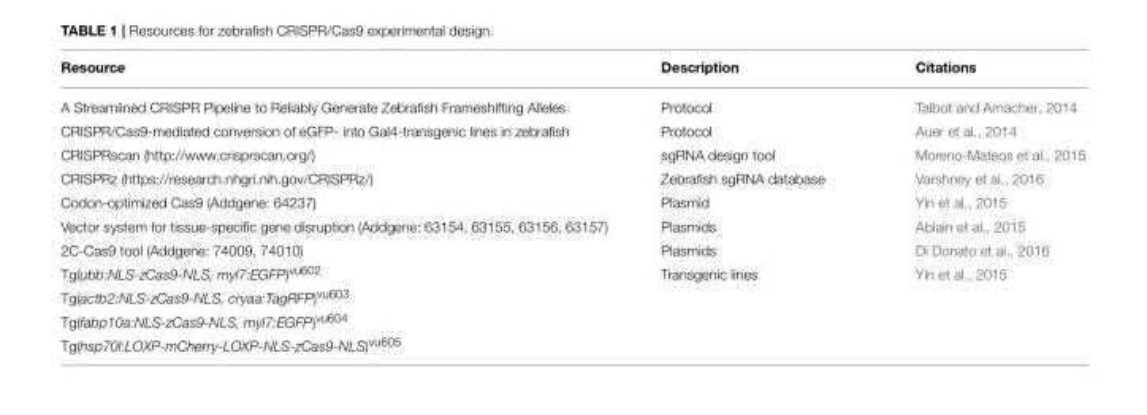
<table><thead><tr><td>Resource</td><td>Description</td><td>Citations</td></tr></thead><tbody><tr><td>A Streamlined CRISPR Pipeline to Reliably Generate Zebrafish Frameshifting Alleles</td><td>Protocol</td><td>Talbot and Amacher, 2014</td></tr><tr><td>CRISPR/Cas9-mediated conversion of eGFP- into Gal4-transgenic lines in zebrafish</td><td>Protocol</td><td>Auer et al., 2014</td></tr><tr><td>CRISPRscan (http://www.crisprscan.org/)</td><td>sgRNA design tool</td><td>Moreno-Mateos et al., 2015</td></tr><tr><td>CRISPRz (https://research.nhgri.nih.gov/CRISPRz/)</td><td>Zebrafish sgRNA database</td><td>Varshney et al., 2016</td></tr><tr><td>Codon-optimized Cas9 (Addgene: 64237)</td><td>Plasmid</td><td>Yin et al., 2015</td></tr><tr><td>Vector system for tissue-specific gene disruption (Addgene: 63154, 63155, 63156, 63157)</td><td>Plasmids</td><td>Ablain et al., 2015</td></tr><tr><td>2C-Cas9 tool (Addgene: 74009, 74010)</td><td>Plasmids</td><td>Di Donato et al., 2016</td></tr><tr><td>Tg(ubb:NLS-zCas9-NLS, myl7:EGFP)<sup>vu602</sup></td><td>Transgenic lines</td><td>Yin et al., 2015</td></tr><tr><td colspan="3">Tg(actb2:NLS-zCas9-NLS, cryaa:TagRFP)<sup>vu603</sup></td></tr><tr><td colspan="3">Tg(fabp10a:NLS-zCas9-NLS, myl7:EGFP)<sup>vu604</sup></td></tr><tr><td>Tg(hsp70l:LOXP-mCherry-LOXP-NLS-zCas9-NLS)<sup>vu605</sup></td><td></td><td></td></tr></tbody></table>